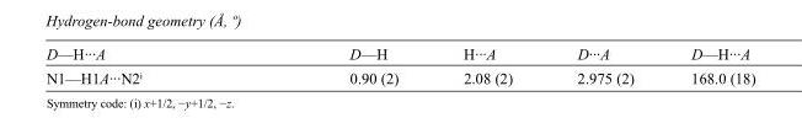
<table><tbody><tr><td>D—H···A</td><td>D—H</td><td>H···A</td><td>D···A</td><td>D—H···A</td></tr><tr><td>N1—H1A···N2<sup>i</sup></td><td>0.90 (2)</td><td>2.08 (2)</td><td>2.975 (2)</td><td>168.0 (18)</td></tr></tbody></table>